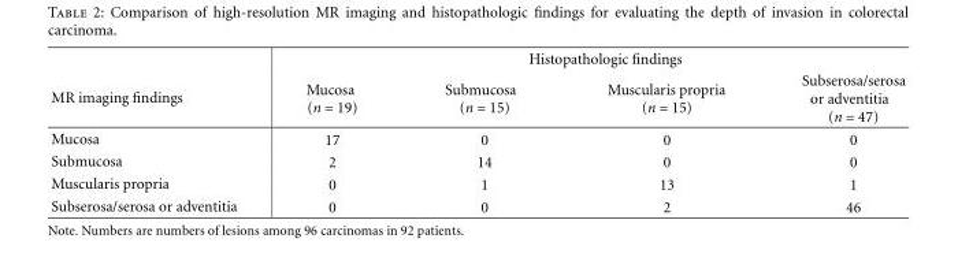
<table><thead><tr><td rowspan="2">MR imaging findings</td><td colspan="4">Histopathologic findings</td></tr><tr><td>Mucosa (n = 19)</td><td>Submucosa (n = 15)</td><td>Muscularis propria (n = 15)</td><td>Subserosa/serosa or adventitia (n = 47)</td></tr></thead><tbody><tr><td>Mucosa</td><td>17</td><td>0</td><td>0</td><td>0</td></tr><tr><td>Submucosa</td><td>2</td><td>14</td><td>0</td><td>0</td></tr><tr><td>Muscularis propria</td><td>0</td><td>1</td><td>13</td><td>1</td></tr><tr><td>Subserosa/serosa or adventitia</td><td>0</td><td>0</td><td>2</td><td>46</td></tr></tbody></table>